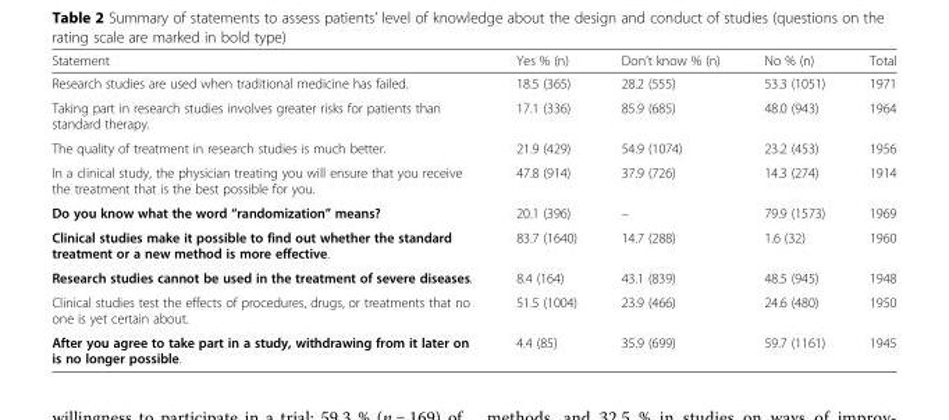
<table><thead><tr><td>Statement</td><td>Yes % (n)</td><td>Don’t know % (n)</td><td>No % (n)</td><td>Total</td></tr></thead><tbody><tr><td>Research studies are used when traditional medicine has failed.</td><td>18.5 (365)</td><td>28.2 (555)</td><td>53.3 (1051)</td><td>1971</td></tr><tr><td>Taking part in research studies involves greater risks for patients than standard therapy.</td><td>17.1 (336)</td><td>85.9 (685)</td><td>48.0 (943)</td><td>1964</td></tr><tr><td>The quality of treatment in research studies is much better.</td><td>21.9 (429)</td><td>54.9 (1074)</td><td>23.2 (453)</td><td>1956</td></tr><tr><td>In a clinical study, the physician treating you will ensure that you receive the treatment that is the best possible for you.</td><td>47.8 (914)</td><td>37.9 (726)</td><td>14.3 (274)</td><td>1914</td></tr><tr><td>Do you know what the word “randomization” means?</td><td>20.1 (396)</td><td>–</td><td>79.9 (1573)</td><td>1969</td></tr><tr><td>Clinical studies make it possible to find out whether the standard treatment or a new method is more effective.</td><td>83.7 (1640)</td><td>14.7 (288)</td><td>1.6 (32)</td><td>1960</td></tr><tr><td>Research studies cannot be used in the treatment of severe diseases.</td><td>8.4 (164)</td><td>43.1 (839)</td><td>48.5 (945)</td><td>1948</td></tr><tr><td>Clinical studies test the effects of procedures, drugs, or treatments that no one is yet certain about.</td><td>51.5 (1004)</td><td>23.9 (466)</td><td>24.6 (480)</td><td>1950</td></tr><tr><td>After you agree to take part in a study, withdrawing from it later on is no longer possible.</td><td>4.4 (85)</td><td>35.9 (699)</td><td>59.7 (1161)</td><td>1945</td></tr></tbody></table>